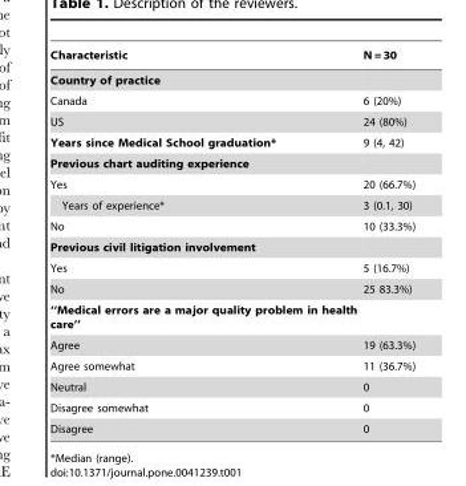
<table><thead><tr><td>Characteristic</td><td>N = 30</td></tr></thead><tbody><tr><td colspan="2">Country of practice</td></tr><tr><td>Canada</td><td>6 (20%)</td></tr><tr><td>US</td><td>24 (80%)</td></tr><tr><td>Years since Medical School graduation*</td><td>9 (4, 42)</td></tr><tr><td colspan="2">Previous chart auditing experience</td></tr><tr><td>Yes</td><td>20 (66.7%)</td></tr><tr><td>Years of experience*</td><td>3 (0.1, 30)</td></tr><tr><td>No</td><td>10 (33.3%)</td></tr><tr><td colspan="2">Previous civil litigation involvement</td></tr><tr><td>Yes</td><td>5 (16.7%)</td></tr><tr><td>No</td><td>25 83.3%)</td></tr><tr><td colspan="2">‘‘Medical errors are a major quality problem in health care’’</td></tr><tr><td>Agree</td><td>19 (63.3%)</td></tr><tr><td>Agree somewhat</td><td>11 (36.7%)</td></tr><tr><td>Neutral</td><td>0</td></tr><tr><td>Disagree somewhat</td><td>0</td></tr><tr><td>Disagree</td><td>0</td></tr></tbody></table>